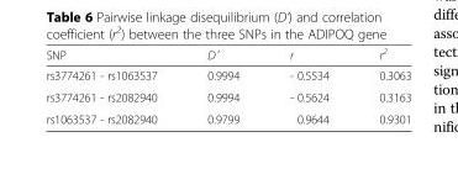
<table><thead><tr><td>SNP</td><td>Dʹ</td><td>r</td><td>r<sup>2</sup></td></tr></thead><tbody><tr><td>rs3774261 - rs1063537</td><td>0.9994</td><td>- 0.5534</td><td>0.3063</td></tr><tr><td>rs3774261 - rs2082940</td><td>0.9994</td><td>- 0.5624</td><td>0.3163</td></tr><tr><td>rs1063537 - rs2082940</td><td>0.9799</td><td>0.9644</td><td>0.9301</td></tr></tbody></table>